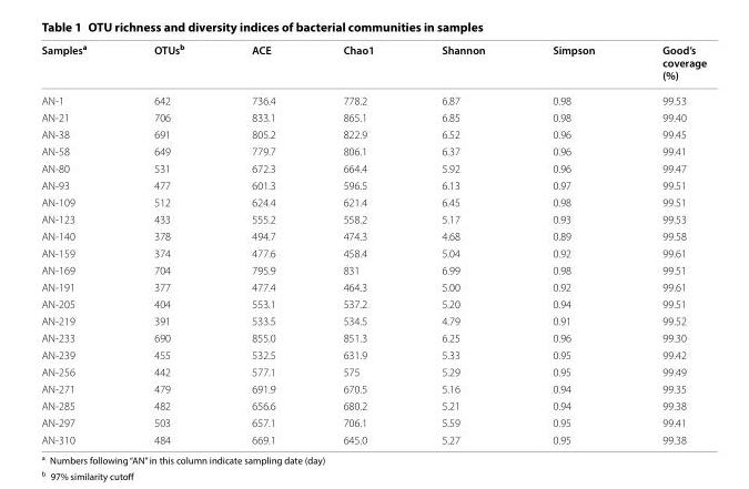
<table><thead><tr><td>Samples<sup>a</sup></td><td>OTUs<sup>b</sup></td><td>ACE</td><td>Chao1</td><td>Shannon</td><td>Simpson</td><td>Good’s coverage (%)</td></tr></thead><tbody><tr><td>AN‑1</td><td>642</td><td>736.4</td><td>778.2</td><td>6.87</td><td>0.98</td><td>99.53</td></tr><tr><td>AN‑21</td><td>706</td><td>833.1</td><td>865.1</td><td>6.85</td><td>0.98</td><td>99.40</td></tr><tr><td>AN‑38</td><td>691</td><td>805.2</td><td>822.9</td><td>6.52</td><td>0.96</td><td>99.45</td></tr><tr><td>AN‑58</td><td>649</td><td>779.7</td><td>806.1</td><td>6.37</td><td>0.96</td><td>99.41</td></tr><tr><td>AN‑80</td><td>531</td><td>672.3</td><td>664.4</td><td>5.92</td><td>0.96</td><td>99.47</td></tr><tr><td>AN‑93</td><td>477</td><td>601.3</td><td>596.5</td><td>6.13</td><td>0.97</td><td>99.51</td></tr><tr><td>AN‑109</td><td>512</td><td>624.4</td><td>621.4</td><td>6.45</td><td>0.98</td><td>99.51</td></tr><tr><td>AN‑123</td><td>433</td><td>555.2</td><td>558.2</td><td>5.17</td><td>0.93</td><td>99.53</td></tr><tr><td>AN‑140</td><td>378</td><td>494.7</td><td>474.3</td><td>4.68</td><td>0.89</td><td>99.58</td></tr><tr><td>AN‑159</td><td>374</td><td>477.6</td><td>458.4</td><td>5.04</td><td>0.92</td><td>99.61</td></tr><tr><td>AN‑169</td><td>704</td><td>795.9</td><td>831</td><td>6.99</td><td>0.98</td><td>99.51</td></tr><tr><td>AN‑191</td><td>377</td><td>477.4</td><td>464.3</td><td>5.00</td><td>0.92</td><td>99.61</td></tr><tr><td>AN‑205</td><td>404</td><td>553.1</td><td>537.2</td><td>5.20</td><td>0.94</td><td>99.51</td></tr><tr><td>AN‑219</td><td>391</td><td>533.5</td><td>534.5</td><td>4.79</td><td>0.91</td><td>99.52</td></tr><tr><td>AN‑233</td><td>690</td><td>855.0</td><td>851.3</td><td>6.25</td><td>0.96</td><td>99.30</td></tr><tr><td>AN‑239</td><td>455</td><td>532.5</td><td>631.9</td><td>5.33</td><td>0.95</td><td>99.42</td></tr><tr><td>AN‑256</td><td>442</td><td>577.1</td><td>575</td><td>5.29</td><td>0.95</td><td>99.49</td></tr><tr><td>AN‑271</td><td>479</td><td>691.9</td><td>670.5</td><td>5.16</td><td>0.94</td><td>99.35</td></tr><tr><td>AN‑285</td><td>482</td><td>656.6</td><td>680.2</td><td>5.21</td><td>0.94</td><td>99.38</td></tr><tr><td>AN‑297</td><td>503</td><td>657.1</td><td>706.1</td><td>5.59</td><td>0.95</td><td>99.41</td></tr><tr><td>AN‑310</td><td>484</td><td>669.1</td><td>645.0</td><td>5.27</td><td>0.95</td><td>99.38</td></tr></tbody></table>